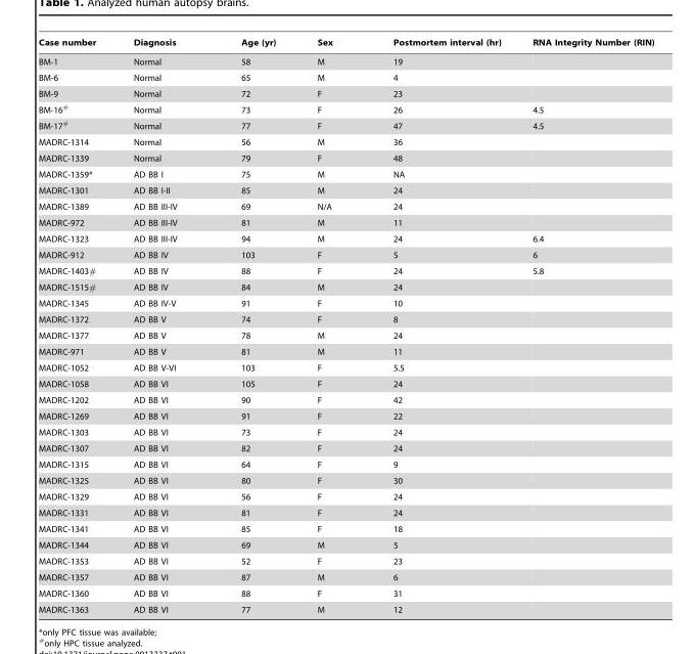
<table><thead><tr><td>Case number</td><td>Diagnosis</td><td>Age (yr)</td><td>Sex</td><td>Postmortem interval (hr)</td><td>RNA Integrity Number (RIN)</td></tr></thead><tbody><tr><td>BM-1</td><td>Normal</td><td>58</td><td>M</td><td>19</td><td></td></tr><tr><td>BM-6</td><td>Normal</td><td>65</td><td>M</td><td>4</td><td></td></tr><tr><td>BM-9</td><td>Normal</td><td>72</td><td>F</td><td>23</td><td></td></tr><tr><td>BM-16#</td><td>Normal</td><td>73</td><td>F</td><td>26</td><td>4.5</td></tr><tr><td>BM-17#</td><td>Normal</td><td>77</td><td>F</td><td>47</td><td>4.5</td></tr><tr><td>MADRC-1314</td><td>Normal</td><td>56</td><td>M</td><td>36</td><td></td></tr><tr><td>MADRC-1339</td><td>Normal</td><td>79</td><td>F</td><td>48</td><td></td></tr><tr><td>MADRC-1359*</td><td>AD BB I</td><td>75</td><td>M</td><td>NA</td><td></td></tr><tr><td>MADRC-1301</td><td>AD BB I-II</td><td>85</td><td>M</td><td>24</td><td></td></tr><tr><td>MADRC-1389</td><td>AD BB III-IV</td><td>69</td><td>N/A</td><td>24</td><td></td></tr><tr><td>MADRC-972</td><td>AD BB III-IV</td><td>81</td><td>M</td><td>11</td><td></td></tr><tr><td>MADRC-1323</td><td>AD BB III-IV</td><td>94</td><td>M</td><td>24</td><td>6.4</td></tr><tr><td>MADRC-912</td><td>AD BB IV</td><td>103</td><td>F</td><td>5</td><td>6</td></tr><tr><td>MADRC-1403#</td><td>AD BB IV</td><td>88</td><td>F</td><td>24</td><td>5.8</td></tr><tr><td>MADRC-1515#</td><td>AD BB IV</td><td>84</td><td>M</td><td>24</td><td></td></tr><tr><td>MADRC-1345</td><td>AD BB IV-V</td><td>91</td><td>F</td><td>10</td><td></td></tr><tr><td>MADRC-1372</td><td>AD BB V</td><td>74</td><td>F</td><td>8</td><td></td></tr><tr><td>MADRC-1377</td><td>AD BB V</td><td>78</td><td>M</td><td>24</td><td></td></tr><tr><td>MADRC-971</td><td>AD BB V</td><td>81</td><td>M</td><td>11</td><td></td></tr><tr><td>MADRC-1052</td><td>AD BB V-VI</td><td>103</td><td>F</td><td>5.5</td><td></td></tr><tr><td>MADRC-1058</td><td>AD BB VI</td><td>105</td><td>F</td><td>24</td><td></td></tr><tr><td>MADRC-1202</td><td>AD BB VI</td><td>90</td><td>F</td><td>42</td><td></td></tr><tr><td>MADRC-1269</td><td>AD BB VI</td><td>91</td><td>F</td><td>22</td><td></td></tr><tr><td>MADRC-1303</td><td>AD BB VI</td><td>73</td><td>F</td><td>24</td><td></td></tr><tr><td>MADRC-1307</td><td>AD BB VI</td><td>82</td><td>F</td><td>24</td><td></td></tr><tr><td>MADRC-1315</td><td>AD BB VI</td><td>64</td><td>F</td><td>9</td><td></td></tr><tr><td>MADRC-1325</td><td>AD BB VI</td><td>80</td><td>F</td><td>30</td><td></td></tr><tr><td>MADRC-1329</td><td>AD BB VI</td><td>56</td><td>F</td><td>24</td><td></td></tr><tr><td>MADRC-1331</td><td>AD BB VI</td><td>81</td><td>F</td><td>24</td><td></td></tr><tr><td>MADRC-1341</td><td>AD BB VI</td><td>85</td><td>F</td><td>18</td><td></td></tr><tr><td>MADRC-1344</td><td>AD BB VI</td><td>69</td><td>M</td><td>5</td><td></td></tr><tr><td>MADRC-1353</td><td>AD BB VI</td><td>52</td><td>F</td><td>23</td><td></td></tr><tr><td>MADRC-1357</td><td>AD BB VI</td><td>87</td><td>M</td><td>6</td><td></td></tr><tr><td>MADRC-1360</td><td>AD BB VI</td><td>88</td><td>F</td><td>31</td><td></td></tr><tr><td>MADRC-1363</td><td>AD BB VI</td><td>77</td><td>M</td><td>12</td><td></td></tr></tbody></table>